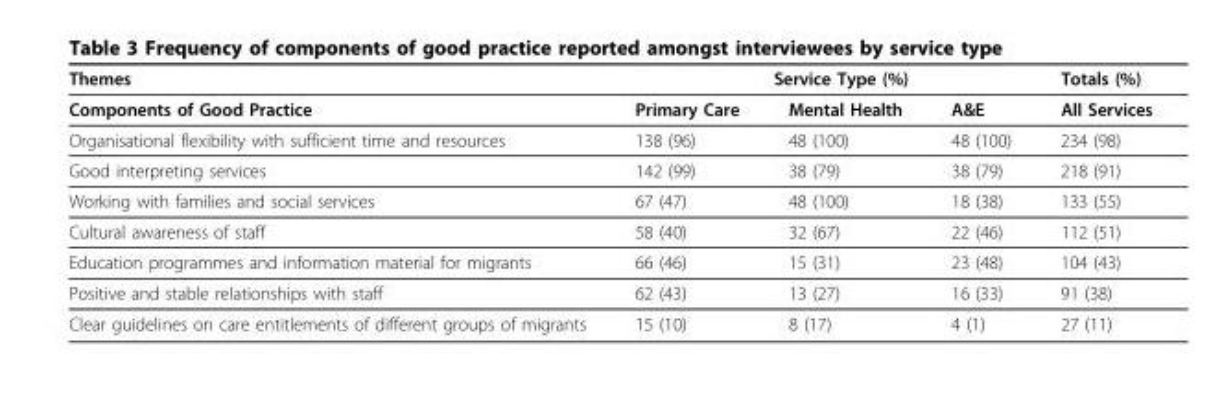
<table><thead><tr><td rowspan="2">Themes Components of Good Practice</td><td colspan="3">Service Type (%)</td><td rowspan="2">Totals (%) All Services</td></tr><tr><td>Primary Care</td><td>Mental Health</td><td>A&amp;E</td></tr></thead><tbody><tr><td>Organisational flexibility with sufficient time and resources</td><td>138 (96)</td><td>48 (100)</td><td>48 (100)</td><td>234 (98)</td></tr><tr><td>Good interpreting services</td><td>142 (99)</td><td>38 (79)</td><td>38 (79)</td><td>218 (91)</td></tr><tr><td>Working with families and social services</td><td>67 (47)</td><td>48 (100)</td><td>18 (38)</td><td>133 (55)</td></tr><tr><td>Cultural awareness of staff</td><td>58 (40)</td><td>32 (67)</td><td>22 (46)</td><td>112 (51)</td></tr><tr><td>Education programmes and information material for migrants</td><td>66 (46)</td><td>15 (31)</td><td>23 (48)</td><td>104 (43)</td></tr><tr><td>Positive and stable relationships with staff</td><td>62 (43)</td><td>13 (27)</td><td>16 (33)</td><td>91 (38)</td></tr><tr><td>Clear guidelines on care entitlements of different groups of migrants</td><td>15 (10)</td><td>8 (17)</td><td>4 (1)</td><td>27 (11)</td></tr></tbody></table>